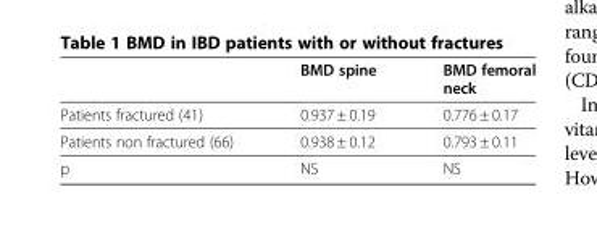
<table><thead><tr><td></td><td>BMD spine</td><td>BMD femoral neck</td></tr></thead><tbody><tr><td>Patients fractured (41)</td><td>0.937 ± 0.19</td><td>0.776 ± 0.17</td></tr><tr><td>Patients non fractured (66)</td><td>0.938 ± 0.12</td><td>0.793 ± 0.11</td></tr><tr><td>p</td><td>NS</td><td>NS</td></tr></tbody></table>